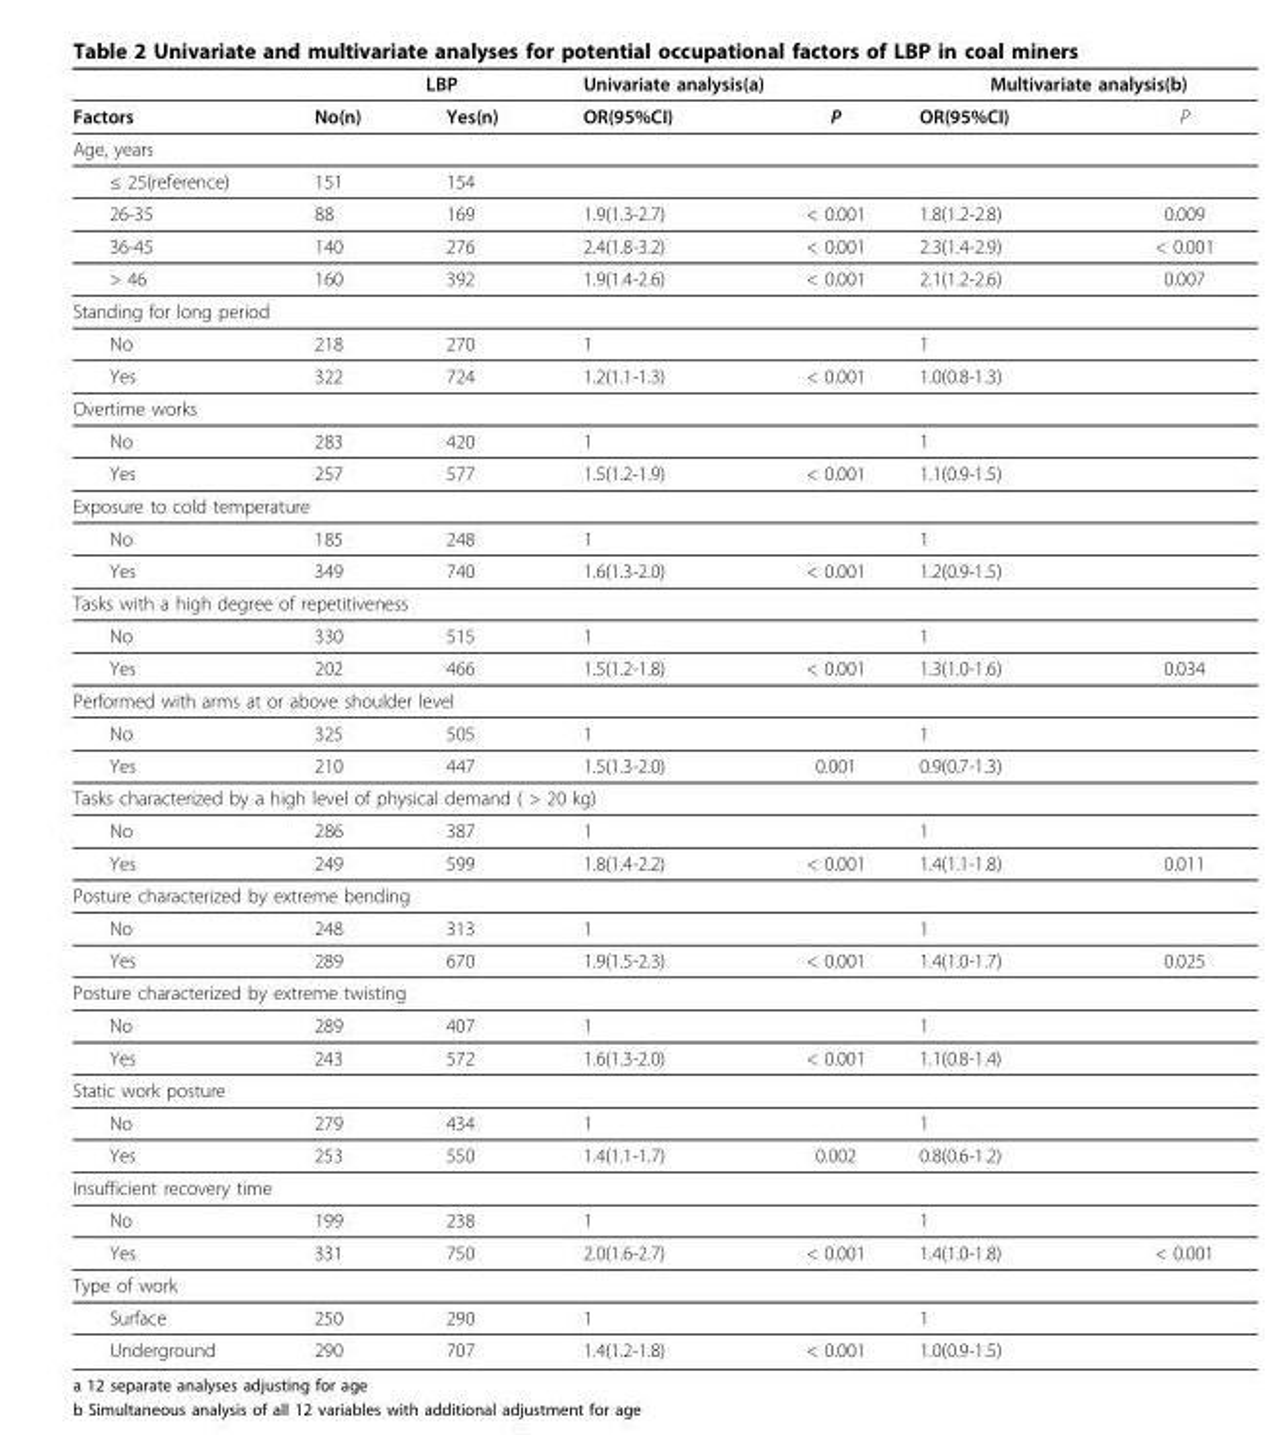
<table><thead><tr><td rowspan="2">Factors</td><td colspan="2">LBP</td><td colspan="2">Univariate analysis(a)</td><td colspan="2">Multivariate analysis(b)</td></tr><tr><td>No(n)</td><td>Yes(n)</td><td>OR(95%CI)</td><td>P</td><td>OR(95%CI)</td><td>P</td></tr></thead><tbody><tr><td colspan="7">Age, years</td></tr><tr><td>≤ 25(reference)</td><td>151</td><td>154</td><td></td><td></td><td></td><td></td></tr><tr><td>26-35</td><td>88</td><td>169</td><td>1.9(1.3-2.7)</td><td>&lt; 0.001</td><td>1.8(1.2-2.8)</td><td>0.009</td></tr><tr><td>36-45</td><td>140</td><td>276</td><td>2.4(1.8-3.2)</td><td>&lt; 0.001</td><td>2.3(1.4-2.9)</td><td>&lt; 0.001</td></tr><tr><td>&gt; 46</td><td>160</td><td>392</td><td>1.9(1.4-2.6)</td><td>&lt; 0.001</td><td>2.1(1.2-2.6)</td><td>0.007</td></tr><tr><td colspan="7">Standing for long period</td></tr><tr><td>No</td><td>218</td><td>270</td><td>1</td><td></td><td>1</td><td></td></tr><tr><td>Yes</td><td>322</td><td>724</td><td>1.2(1.1-1.3)</td><td>&lt; 0.001</td><td>1.0(0.8-1.3)</td><td></td></tr><tr><td colspan="7">Overtime works</td></tr><tr><td>No</td><td>283</td><td>420</td><td>1</td><td></td><td>1</td><td></td></tr><tr><td>Yes</td><td>257</td><td>577</td><td>1.5(1.2-1.9)</td><td>&lt; 0.001</td><td>1.1(0.9-1.5)</td><td></td></tr><tr><td colspan="7">Exposure to cold temperature</td></tr><tr><td>No</td><td>185</td><td>248</td><td>1</td><td></td><td>1</td><td></td></tr><tr><td>Yes</td><td>349</td><td>740</td><td>1.6(1.3-2.0)</td><td>&lt; 0.001</td><td>1.2(0.9-1.5)</td><td></td></tr><tr><td colspan="7">Tasks with a high degree of repetitiveness</td></tr><tr><td>No</td><td>330</td><td>515</td><td>1</td><td></td><td>1</td><td></td></tr><tr><td>Yes</td><td>202</td><td>466</td><td>1.5(1.2-1.8)</td><td>&lt; 0.001</td><td>1.3(1.0-1.6)</td><td>0.034</td></tr><tr><td colspan="7">Performed with arms at or above shoulder level</td></tr><tr><td>No</td><td>325</td><td>505</td><td>1</td><td></td><td>1</td><td></td></tr><tr><td>Yes</td><td>210</td><td>447</td><td>1.5(1.3-2.0)</td><td>0.001</td><td>0.9(0.7-1.3)</td><td></td></tr><tr><td colspan="7">Tasks characterized by a high level of physical demand ( &gt; 20 kg)</td></tr><tr><td>No</td><td>286</td><td>387</td><td>1</td><td></td><td>1</td><td></td></tr><tr><td>Yes</td><td>249</td><td>599</td><td>1.8(1.4-2.2)</td><td>&lt; 0.001</td><td>1.4(1.1-1.8)</td><td>0.011</td></tr><tr><td colspan="7">Posture characterized by extreme bending</td></tr><tr><td>No</td><td>248</td><td>313</td><td>1</td><td></td><td>1</td><td></td></tr><tr><td>Yes</td><td>289</td><td>670</td><td>1.9(1.5-2.3)</td><td>&lt; 0.001</td><td>1.4(1.0-1.7)</td><td>0.025</td></tr><tr><td colspan="7">Posture characterized by extreme twisting</td></tr><tr><td>No</td><td>289</td><td>407</td><td>1</td><td></td><td>1</td><td></td></tr><tr><td>Yes</td><td>243</td><td>572</td><td>1.6(1.3-2.0)</td><td>&lt; 0.001</td><td>1.1(0.8-1.4)</td><td></td></tr><tr><td colspan="7">Static work posture</td></tr><tr><td>No</td><td>279</td><td>434</td><td>1</td><td></td><td>1</td><td></td></tr><tr><td>Yes</td><td>253</td><td>550</td><td>1.4(1.1-1.7)</td><td>0.002</td><td>0.8(0.6-1.2)</td><td></td></tr><tr><td colspan="7">Insufficient recovery time</td></tr><tr><td>No</td><td>199</td><td>238</td><td>1</td><td></td><td>1</td><td></td></tr><tr><td>Yes</td><td>331</td><td>750</td><td>2.0(1.6-2.7)</td><td>&lt; 0.001</td><td>1.4(1.0-1.8)</td><td>&lt; 0.001</td></tr><tr><td colspan="7">Type of work</td></tr><tr><td>Surface</td><td>250</td><td>290</td><td>1</td><td></td><td>1</td><td></td></tr><tr><td>Underground</td><td>290</td><td>707</td><td>1.4(1.2-1.8)</td><td>&lt; 0.001</td><td>1.0(0.9-1.5)</td><td></td></tr></tbody></table>